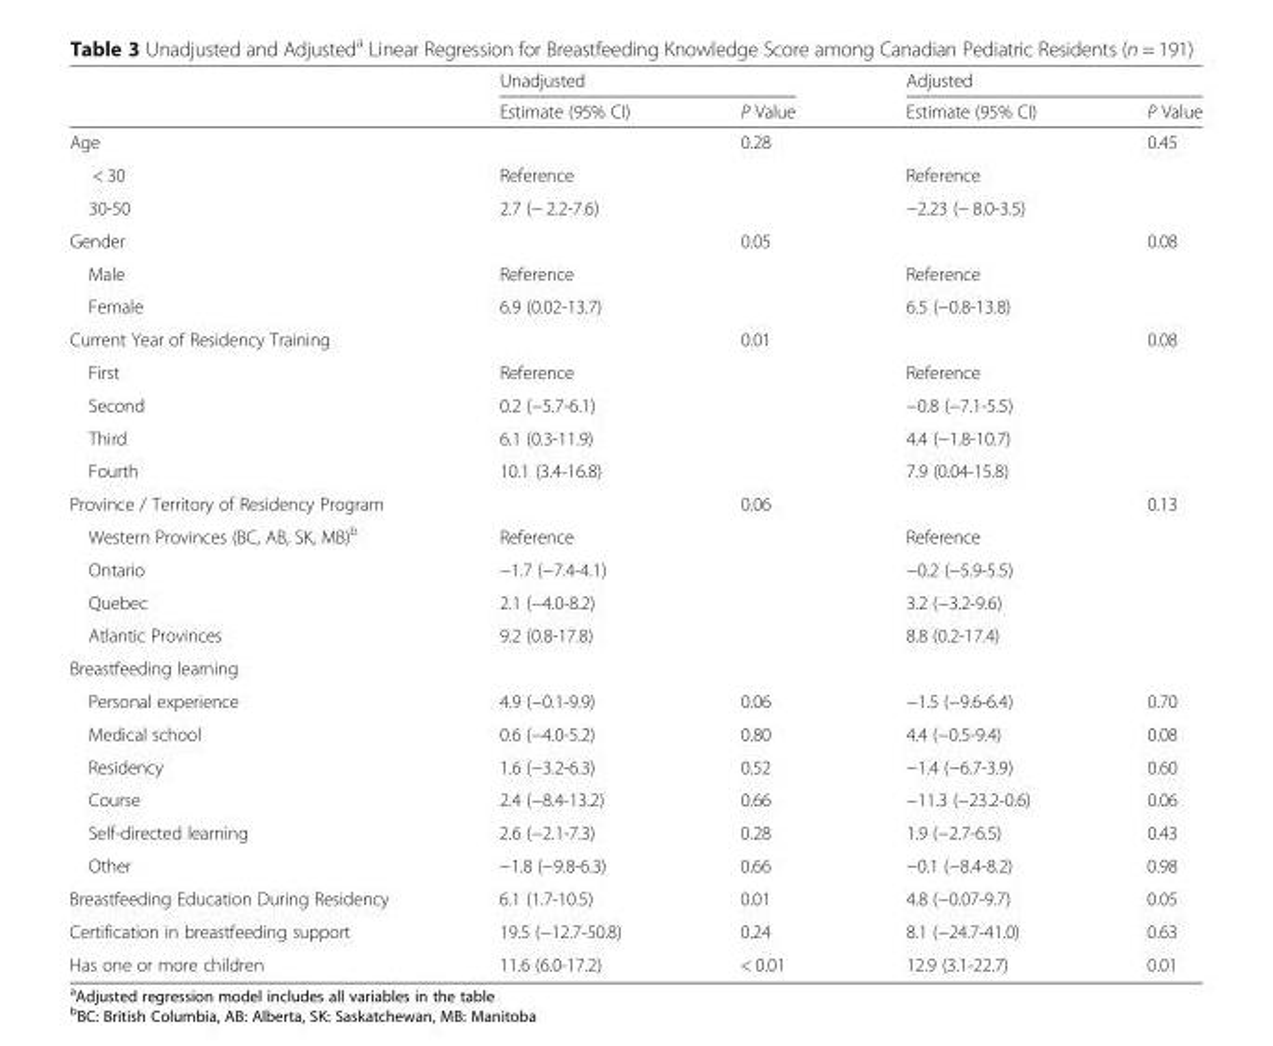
<table><thead><tr><td rowspan="2"></td><td colspan="2">Unadjusted</td><td colspan="2">Adjusted</td></tr><tr><td>Estimate (95% CI)</td><td>P Value</td><td>Estimate (95% CI)</td><td>P Value</td></tr></thead><tbody><tr><td>Age</td><td></td><td>0.28</td><td></td><td>0.45</td></tr><tr><td>&lt; 30</td><td>Reference</td><td></td><td>Reference</td><td></td></tr><tr><td>30-50</td><td>2.7 (− 2.2-7.6)</td><td></td><td>−2.23 (− 8.0-3.5)</td><td></td></tr><tr><td>Gender</td><td></td><td>0.05</td><td></td><td>0.08</td></tr><tr><td>Male</td><td>Reference</td><td></td><td>Reference</td><td></td></tr><tr><td>Female</td><td>6.9 (0.02-13.7)</td><td></td><td>6.5 (−0.8-13.8)</td><td></td></tr><tr><td>Current Year of Residency Training</td><td></td><td>0.01</td><td></td><td>0.08</td></tr><tr><td>First</td><td>Reference</td><td></td><td>Reference</td><td></td></tr><tr><td>Second</td><td>0.2 (−5.7-6.1)</td><td></td><td>−0.8 (−7.1-5.5)</td><td></td></tr><tr><td>Third</td><td>6.1 (0.3-11.9)</td><td></td><td>4.4 (−1.8-10.7)</td><td></td></tr><tr><td>Fourth</td><td>10.1 (3.4-16.8)</td><td></td><td>7.9 (0.04-15.8)</td><td></td></tr><tr><td>Province / Territory of Residency Program</td><td></td><td>0.06</td><td></td><td>0.13</td></tr><tr><td>Western Provinces (BC, AB, SK, MB)<sup>b</sup></td><td>Reference</td><td></td><td>Reference</td><td></td></tr><tr><td>Ontario</td><td>−1.7 (−7.4-4.1)</td><td></td><td>−0.2 (−5.9-5.5)</td><td></td></tr><tr><td>Quebec</td><td>2.1 (−4.0-8.2)</td><td></td><td>3.2 (−3.2-9.6)</td><td></td></tr><tr><td>Atlantic Provinces</td><td>9.2 (0.8-17.8)</td><td></td><td>8.8 (0.2-17.4)</td><td></td></tr><tr><td colspan="5">Breastfeeding learning</td></tr><tr><td>Personal experience</td><td>4.9 (−0.1-9.9)</td><td>0.06</td><td>−1.5 (−9.6-6.4)</td><td>0.70</td></tr><tr><td>Medical school</td><td>0.6 (−4.0-5.2)</td><td>0.80</td><td>4.4 (−0.5-9.4)</td><td>0.08</td></tr><tr><td>Residency</td><td>1.6 (−3.2-6.3)</td><td>0.52</td><td>−1.4 (−6.7-3.9)</td><td>0.60</td></tr><tr><td>Course</td><td>2.4 (−8.4-13.2)</td><td>0.66</td><td>−11.3 (−23.2-0.6)</td><td>0.06</td></tr><tr><td>Self-directed learning</td><td>2.6 (−2.1-7.3)</td><td>0.28</td><td>1.9 (−2.7-6.5)</td><td>0.43</td></tr><tr><td>Other</td><td>−1.8 (−9.8-6.3)</td><td>0.66</td><td>−0.1 (−8.4-8.2)</td><td>0.98</td></tr><tr><td>Breastfeeding Education During Residency</td><td>6.1 (1.7-10.5)</td><td>0.01</td><td>4.8 (−0.07-9.7)</td><td>0.05</td></tr><tr><td>Certification in breastfeeding support</td><td>19.5 (−12.7-50.8)</td><td>0.24</td><td>8.1 (−24.7-41.0)</td><td>0.63</td></tr><tr><td>Has one or more children</td><td>11.6 (6.0-17.2)</td><td>&lt; 0.01</td><td>12.9 (3.1-22.7)</td><td>0.01</td></tr></tbody></table>